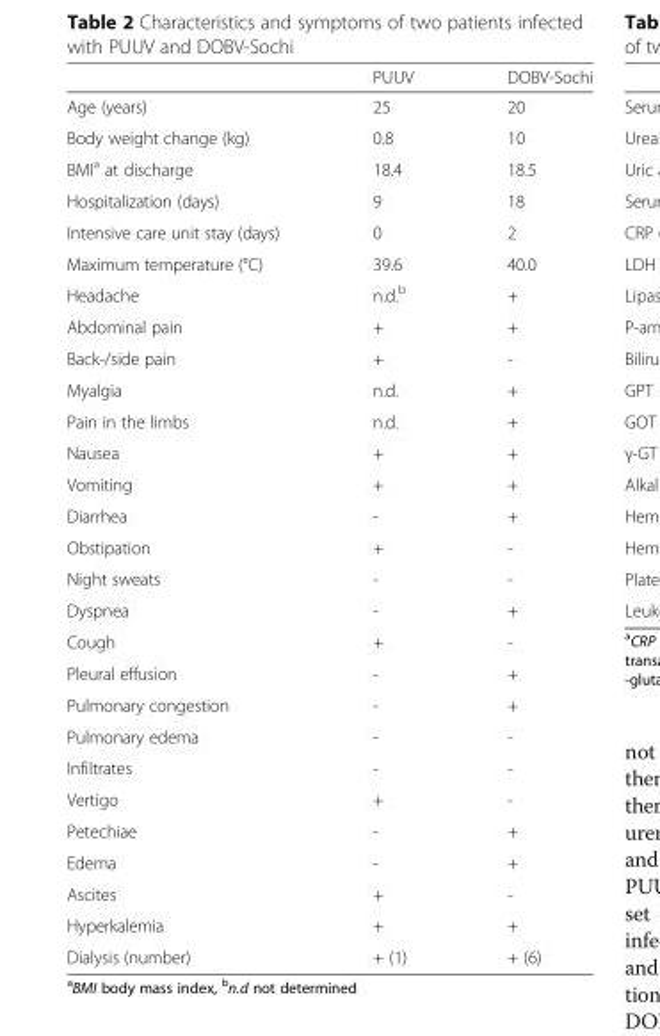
<table><thead><tr><td></td><td>PUUV</td><td>DOBV-Sochi</td></tr></thead><tbody><tr><td>Age (years)</td><td>25</td><td>20</td></tr><tr><td>Body weight change (kg)</td><td>0.8</td><td>10</td></tr><tr><td>BMI<sup>a</sup> at discharge</td><td>18.4</td><td>18.5</td></tr><tr><td>Hospitalization (days)</td><td>9</td><td>18</td></tr><tr><td>Intensive care unit stay (days)</td><td>0</td><td>2</td></tr><tr><td>Maximum temperature (°C)</td><td>39.6</td><td>40.0</td></tr><tr><td>Headache</td><td>n.d.<sup>b</sup></td><td>+</td></tr><tr><td>Abdominal pain</td><td>+</td><td>+</td></tr><tr><td>Back-/side pain</td><td>+</td><td>-</td></tr><tr><td>Myalgia</td><td>n.d.</td><td>+</td></tr><tr><td>Pain in the limbs</td><td>n.d.</td><td>+</td></tr><tr><td>Nausea</td><td>+</td><td>+</td></tr><tr><td>Vomiting</td><td>+</td><td>+</td></tr><tr><td>Diarrhea</td><td>-</td><td>+</td></tr><tr><td>Obstipation</td><td>+</td><td>-</td></tr><tr><td>Night sweats</td><td>-</td><td>-</td></tr><tr><td>Dyspnea</td><td>-</td><td>+</td></tr><tr><td>Cough</td><td>+</td><td>-</td></tr><tr><td>Pleural effusion</td><td>-</td><td>+</td></tr><tr><td>Pulmonary congestion</td><td>-</td><td>+</td></tr><tr><td>Pulmonary edema</td><td>-</td><td>-</td></tr><tr><td>Infiltrates</td><td>-</td><td>-</td></tr><tr><td>Vertigo</td><td>+</td><td>-</td></tr><tr><td>Petechiae</td><td>-</td><td>+</td></tr><tr><td>Edema</td><td>-</td><td>+</td></tr><tr><td>Ascites</td><td>+</td><td>-</td></tr><tr><td>Hyperkalemia</td><td>+</td><td>+</td></tr><tr><td>Dialysis (number)</td><td>+ (1)</td><td>+ (6)</td></tr></tbody></table>